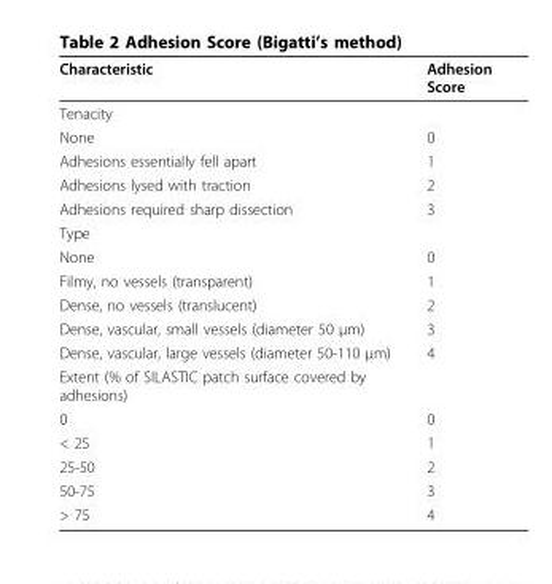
<table><thead><tr><td>Characteristic</td><td>Adhesion Score</td></tr></thead><tbody><tr><td colspan="2">Tenacity</td></tr><tr><td>None</td><td>0</td></tr><tr><td>Adhesions essentially fell apart</td><td>1</td></tr><tr><td>Adhesions lysed with traction</td><td>2</td></tr><tr><td>Adhesions required sharp dissection</td><td>3</td></tr><tr><td colspan="2">Type</td></tr><tr><td>None</td><td>0</td></tr><tr><td>Filmy, no vessels (transparent)</td><td>1</td></tr><tr><td>Dense, no vessels (translucent)</td><td>2</td></tr><tr><td>Dense, vascular, small vessels (diameter 50 μm)</td><td>3</td></tr><tr><td>Dense, vascular, large vessels (diameter 50-110 μm)</td><td>4</td></tr><tr><td colspan="2">Extent (% of SILASTIC patch surface covered by adhesions)</td></tr><tr><td>0</td><td>0</td></tr><tr><td>&lt; 25</td><td>1</td></tr><tr><td>25-50</td><td>2</td></tr><tr><td>50-75</td><td>3</td></tr><tr><td>&gt; 75</td><td>4</td></tr></tbody></table>